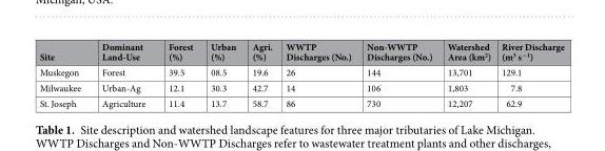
<table><thead><tr><td>Site</td><td>Dominant Land-Use</td><td>Forest (%)</td><td>Urban (%)</td><td>Agri. (%)</td><td>WWTP Discharges (No.)</td><td>Non-WWTP Discharges (No.)</td><td>Watershed Area (km<sup>2</sup>)</td><td>River Discharge (m<sup>3</sup> s<sup>−1</sup>)</td></tr></thead><tbody><tr><td>Muskegon</td><td>Forest</td><td>39.5</td><td>08.5</td><td>19.6</td><td>26</td><td>144</td><td>13,701</td><td>129.1</td></tr><tr><td>Milwaukee</td><td>Urban-Ag</td><td>12.1</td><td>30.3</td><td>42.7</td><td>14</td><td>106</td><td>1,803</td><td>7.8</td></tr><tr><td>St. Joseph</td><td>Agriculture</td><td>11.4</td><td>13.7</td><td>58.7</td><td>86</td><td>730</td><td>12,207</td><td>62.9</td></tr></tbody></table>